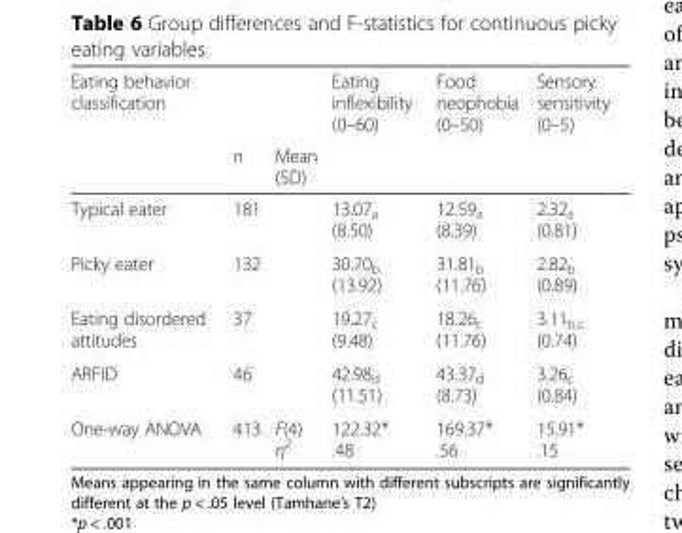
<table><thead><tr><td rowspan="2">Eating behavior classification</td><td rowspan="2">n</td><td rowspan="2">Mean (SD)</td><td rowspan="2">Eating inflexibility (0–60)</td><td rowspan="2">Food neophobia (0–50)</td><td rowspan="2">Sensory sensitivity (0–5)</td></tr><tr></tr></thead><tbody><tr><td>Typical eater</td><td>181</td><td></td><td>13.07<sub>a</sub> (8.50)</td><td>12.59<sub>a</sub> (8.39)</td><td>2.32<sub>a</sub> (0.81)</td></tr><tr><td>Picky eater</td><td>132</td><td></td><td>30.70<sub>b</sub> (13.92)</td><td>31.81<sub>b</sub> (11.76)</td><td>2.82<sub>b</sub> (0.89)</td></tr><tr><td>Eating disordered attitudes</td><td>37</td><td></td><td>19.27<sub>c</sub> (9.48)</td><td>18.26<sub>c</sub> (11.76)</td><td>3.11<sub>b,c</sub> (0.74)</td></tr><tr><td>ARFID</td><td>46</td><td></td><td>42.98<sub>d</sub> (11.51)</td><td>43.37<sub>d</sub> (8.73)</td><td>3.26<sub>c</sub> (0.84)</td></tr><tr><td>One-way ANOVA</td><td>413</td><td>F(4) η<sup>2</sup></td><td>122.32* .48</td><td>169.37* .56</td><td>15.91* .15</td></tr></tbody></table>